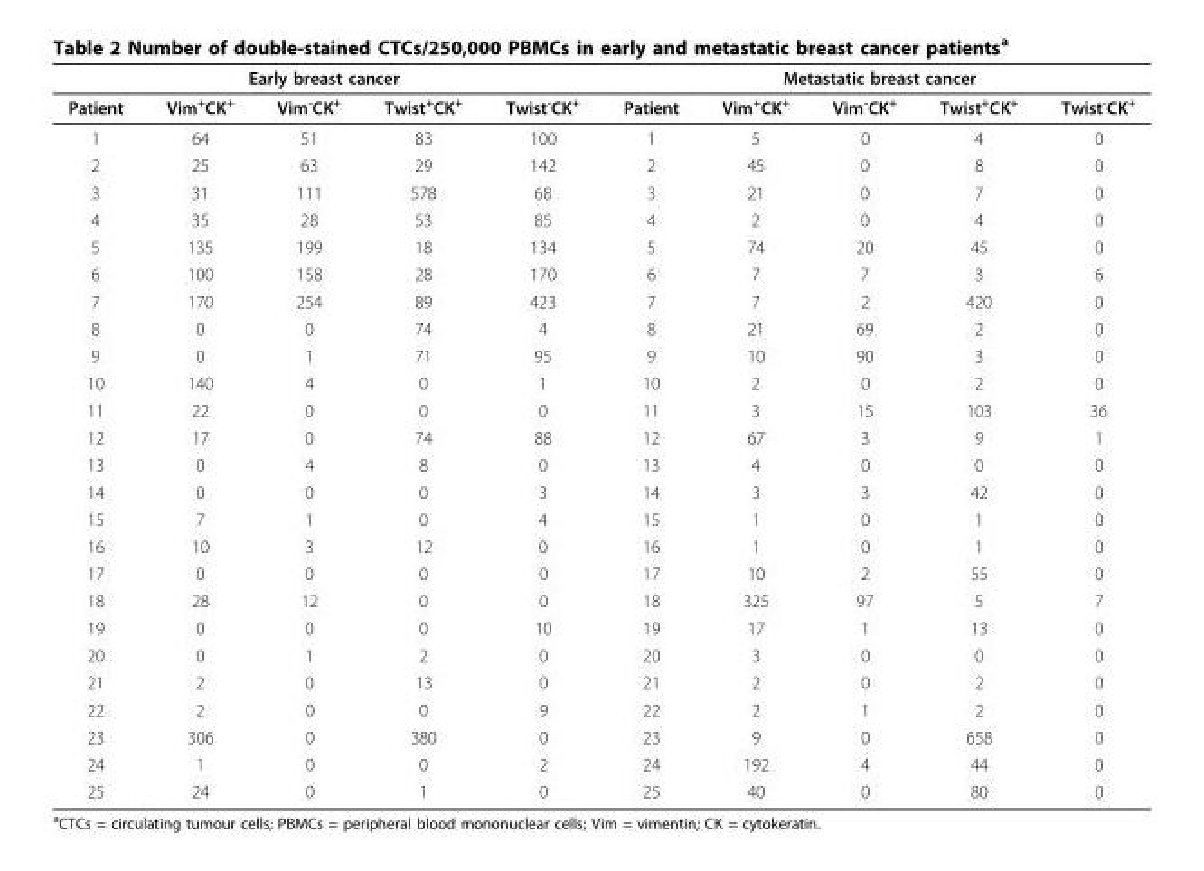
<table><thead><tr><td colspan="5">Early breast cancer</td><td colspan="5">Metastatic breast cancer</td></tr><tr><td>Patient</td><td>Vim<sup>+</sup>CK<sup>+</sup></td><td>Vim<sup>-</sup>CK<sup>+</sup></td><td>Twist<sup>+</sup>CK<sup>+</sup></td><td>Twist<sup>-</sup>CK<sup>+</sup></td><td>Patient</td><td>Vim<sup>+</sup>CK<sup>+</sup></td><td>Vim<sup>-</sup>CK<sup>+</sup></td><td>Twist<sup>+</sup>CK<sup>+</sup></td><td>Twist<sup>-</sup>CK<sup>+</sup></td></tr></thead><tbody><tr><td>1</td><td>64</td><td>51</td><td>83</td><td>100</td><td>1</td><td>5</td><td>0</td><td>4</td><td>0</td></tr><tr><td>2</td><td>25</td><td>63</td><td>29</td><td>142</td><td>2</td><td>45</td><td>0</td><td>8</td><td>0</td></tr><tr><td>3</td><td>31</td><td>111</td><td>578</td><td>68</td><td>3</td><td>21</td><td>0</td><td>7</td><td>0</td></tr><tr><td>4</td><td>35</td><td>28</td><td>53</td><td>85</td><td>4</td><td>2</td><td>0</td><td>4</td><td>0</td></tr><tr><td>5</td><td>135</td><td>199</td><td>18</td><td>134</td><td>5</td><td>74</td><td>20</td><td>45</td><td>0</td></tr><tr><td>6</td><td>100</td><td>158</td><td>28</td><td>170</td><td>6</td><td>7</td><td>7</td><td>3</td><td>6</td></tr><tr><td>7</td><td>170</td><td>254</td><td>89</td><td>423</td><td>7</td><td>7</td><td>2</td><td>420</td><td>0</td></tr><tr><td>8</td><td>0</td><td>0</td><td>74</td><td>4</td><td>8</td><td>21</td><td>69</td><td>2</td><td>0</td></tr><tr><td>9</td><td>0</td><td>1</td><td>71</td><td>95</td><td>9</td><td>10</td><td>90</td><td>3</td><td>0</td></tr><tr><td>10</td><td>140</td><td>4</td><td>0</td><td>1</td><td>10</td><td>2</td><td>0</td><td>2</td><td>0</td></tr><tr><td>11</td><td>22</td><td>0</td><td>0</td><td>0</td><td>11</td><td>3</td><td>15</td><td>103</td><td>36</td></tr><tr><td>12</td><td>17</td><td>0</td><td>74</td><td>88</td><td>12</td><td>67</td><td>3</td><td>9</td><td>1</td></tr><tr><td>13</td><td>0</td><td>4</td><td>8</td><td>0</td><td>13</td><td>4</td><td>0</td><td>0</td><td>0</td></tr><tr><td>14</td><td>0</td><td>0</td><td>0</td><td>3</td><td>14</td><td>3</td><td>3</td><td>42</td><td>0</td></tr><tr><td>15</td><td>7</td><td>1</td><td>0</td><td>4</td><td>15</td><td>1</td><td>0</td><td>1</td><td>0</td></tr><tr><td>16</td><td>10</td><td>3</td><td>12</td><td>0</td><td>16</td><td>1</td><td>0</td><td>1</td><td>0</td></tr><tr><td>17</td><td>0</td><td>0</td><td>0</td><td>0</td><td>17</td><td>10</td><td>2</td><td>55</td><td>0</td></tr><tr><td>18</td><td>28</td><td>12</td><td>0</td><td>0</td><td>18</td><td>325</td><td>97</td><td>5</td><td>7</td></tr><tr><td>19</td><td>0</td><td>0</td><td>0</td><td>10</td><td>19</td><td>17</td><td>1</td><td>13</td><td>0</td></tr><tr><td>20</td><td>0</td><td>1</td><td>2</td><td>0</td><td>20</td><td>3</td><td>0</td><td>0</td><td>0</td></tr><tr><td>21</td><td>2</td><td>0</td><td>13</td><td>0</td><td>21</td><td>2</td><td>0</td><td>2</td><td>0</td></tr><tr><td>22</td><td>2</td><td>0</td><td>0</td><td>9</td><td>22</td><td>2</td><td>1</td><td>2</td><td>0</td></tr><tr><td>23</td><td>306</td><td>0</td><td>380</td><td>0</td><td>23</td><td>9</td><td>0</td><td>658</td><td>0</td></tr><tr><td>24</td><td>1</td><td>0</td><td>0</td><td>2</td><td>24</td><td>192</td><td>4</td><td>44</td><td>0</td></tr><tr><td>25</td><td>24</td><td>0</td><td>1</td><td>0</td><td>25</td><td>40</td><td>0</td><td>80</td><td>0</td></tr></tbody></table>